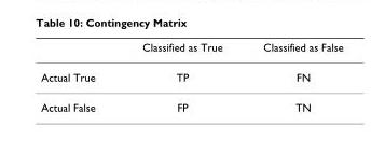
<table><thead><tr><td></td><td>Classified as True</td><td>Classified as False</td></tr></thead><tbody><tr><td>Actual True</td><td>TP</td><td>FN</td></tr><tr><td>Actual False</td><td>FP</td><td>TN</td></tr></tbody></table>